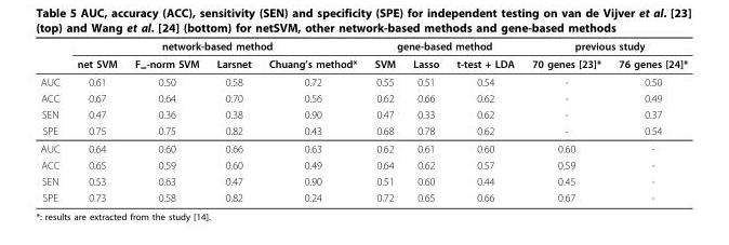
<table><thead><tr><td rowspan="2"></td><td colspan="4">network-based method</td><td colspan="3">gene-based method</td><td colspan="2">previous study</td></tr><tr><td>net SVM</td><td>F<sub>∞</sub>-norm SVM</td><td>Larsnet</td><td>Chuang’s method*</td><td>SVM</td><td>Lasso</td><td>t-test + LDA</td><td>70 genes [23]*</td><td>76 genes [24]*</td></tr></thead><tbody><tr><td>AUC</td><td>0.61</td><td>0.50</td><td>0.58</td><td>0.72</td><td>0.55</td><td>0.51</td><td>0.54</td><td>-</td><td>0.50</td></tr><tr><td>ACC</td><td>0.67</td><td>0.64</td><td>0.70</td><td>0.56</td><td>0.62</td><td>0.66</td><td>0.62</td><td>-</td><td>0.49</td></tr><tr><td>SEN</td><td>0.47</td><td>0.36</td><td>0.38</td><td>0.90</td><td>0.47</td><td>0.33</td><td>0.62</td><td>-</td><td>0.37</td></tr><tr><td>SPE</td><td>0.75</td><td>0.75</td><td>0.82</td><td>0.43</td><td>0.68</td><td>0.78</td><td>0.62</td><td>-</td><td>0.54</td></tr><tr><td>AUC</td><td>0.64</td><td>0.60</td><td>0.66</td><td>0.63</td><td>0.62</td><td>0.61</td><td>0.60</td><td>0.60</td><td>-</td></tr><tr><td>ACC</td><td>0.65</td><td>0.59</td><td>0.60</td><td>0.49</td><td>0.64</td><td>0.62</td><td>0.57</td><td>0.59</td><td>-</td></tr><tr><td>SEN</td><td>0.53</td><td>0.63</td><td>0.47</td><td>0.90</td><td>0.51</td><td>0.60</td><td>0.44</td><td>0.45</td><td>-</td></tr><tr><td>SPE</td><td>0.73</td><td>0.58</td><td>0.82</td><td>0.24</td><td>0.72</td><td>0.65</td><td>0.66</td><td>0.67</td><td>-</td></tr></tbody></table>